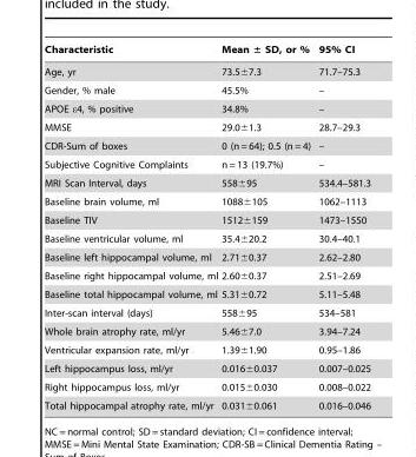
<table><thead><tr><td>Characteristic</td><td>Mean ± SD, or %</td><td>95% CI</td></tr></thead><tbody><tr><td>Age, yr</td><td>73.5±7.3</td><td>71.7–75.3</td></tr><tr><td>Gender, % male</td><td>45.5%</td><td>–</td></tr><tr><td>APOE ε4, % positive</td><td>34.8%</td><td>–</td></tr><tr><td>MMSE</td><td>29.0±1.3</td><td>28.7–29.3</td></tr><tr><td>CDR-Sum of boxes</td><td>0 (n = 64); 0.5 (n = 4)</td><td>–</td></tr><tr><td>Subjective Cognitive Complaints</td><td>n = 13 (19.7%)</td><td>–</td></tr><tr><td>MRI Scan Interval, days</td><td>558±95</td><td>534.4–581.3</td></tr><tr><td>Baseline brain volume, ml</td><td>1088±105</td><td>1062–1113</td></tr><tr><td>Baseline TIV</td><td>1512±159</td><td>1473–1550</td></tr><tr><td>Baseline ventricular volume, ml</td><td>35.4±20.2</td><td>30.4–40.1</td></tr><tr><td>Baseline left hippocampal volume, ml</td><td>2.71±0.37</td><td>2.62–2.80</td></tr><tr><td>Baseline right hippocampal volume, ml</td><td>2.60±0.37</td><td>2.51–2.69</td></tr><tr><td>Baseline total hippocampal volume, ml</td><td>5.31±0.72</td><td>5.11–5.48</td></tr><tr><td>Inter-scan interval (days)</td><td>558±95</td><td>534–581</td></tr><tr><td>Whole brain atrophy rate, ml/yr</td><td>5.46±7.0</td><td>3.94–7.24</td></tr><tr><td>Ventricular expansion rate, ml/yr</td><td>1.39±1.90</td><td>0.95–1.86</td></tr><tr><td>Left hippocampus loss, ml/yr</td><td>0.016±0.037</td><td>0.007–0.025</td></tr><tr><td>Right hippocampus loss, ml/yr</td><td>0.015±0.030</td><td>0.008–0.022</td></tr><tr><td>Total hippocampal atrophy rate, ml/yr</td><td>0.031±0.061</td><td>0.016–0.046</td></tr></tbody></table>